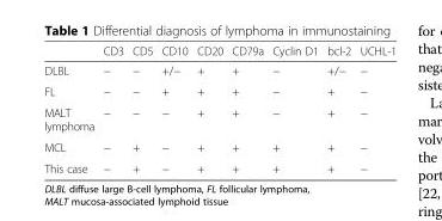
<table><thead><tr><td></td><td>CD3</td><td>CD5</td><td>CD10</td><td>CD20</td><td>CD79a</td><td>Cyclin D1</td><td>bcl-2</td><td>UCHL-1</td></tr></thead><tbody><tr><td>DLBL</td><td>−</td><td>−</td><td>+/−</td><td>+</td><td>+</td><td>−</td><td>+/−</td><td>−</td></tr><tr><td>FL</td><td>−</td><td>−</td><td>+</td><td>+</td><td>+</td><td>−</td><td>+</td><td>−</td></tr><tr><td>MALT lymphoma</td><td>−</td><td>−</td><td>−</td><td>+</td><td>+</td><td>−</td><td>+</td><td>−</td></tr><tr><td>MCL</td><td>−</td><td>+</td><td>−</td><td>+</td><td>+</td><td>+</td><td>+</td><td>−</td></tr><tr><td>This case</td><td>−</td><td>+</td><td>−</td><td>+</td><td>+</td><td>+</td><td>+</td><td>−</td></tr></tbody></table>